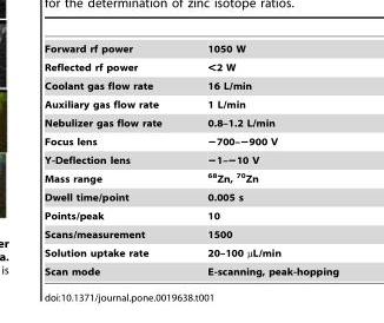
<table><tbody><tr><td>Forward rf power</td><td>1050 W</td></tr><tr><td>Reflected rf power</td><td>&lt;2 W</td></tr><tr><td>Coolant gas flow rate</td><td>16 L/min</td></tr><tr><td>Auxiliary gas flow rate</td><td>1 L/min</td></tr><tr><td>Nebulizer gas flow rate</td><td>0.8–1.2 L/min</td></tr><tr><td>Focus lens</td><td>−700–−900 V</td></tr><tr><td>Y-Deflection lens</td><td>−1–−10 V</td></tr><tr><td>Mass range</td><td><sup>68</sup>Zn, <sup>70</sup>Zn</td></tr><tr><td>Dwell time/point</td><td>0.005 s</td></tr><tr><td>Points/peak</td><td>10</td></tr><tr><td>Scans/measurement</td><td>1500</td></tr><tr><td>Solution uptake rate</td><td>20–100 µL/min</td></tr><tr><td>Scan mode</td><td>E-scanning, peak-hopping</td></tr></tbody></table>